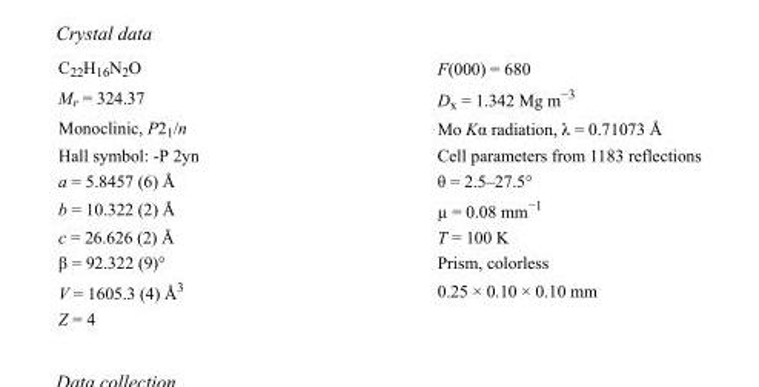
<table><tbody><tr><td>C<sub>22</sub>H<sub>16</sub>N<sub>2</sub>O</td><td>F(000) = 680</td></tr><tr><td>M<sub>r</sub> = 324.37</td><td>D<sub>x</sub> = 1.342 Mg m<sup>−3</sup></td></tr><tr><td>Monoclinic, P2<sub>1</sub>/n</td><td>Mo Kα radiation, λ = 0.71073 Å</td></tr><tr><td>Hall symbol: -P 2yn</td><td>Cell parameters from 1183 reflections</td></tr><tr><td>a = 5.8457 (6) Å</td><td>θ = 2.5–27.5°</td></tr><tr><td>b = 10.322 (2) Å</td><td>µ = 0.08 mm<sup>−1</sup></td></tr><tr><td>c = 26.626 (2) Å</td><td>T = 100 K</td></tr><tr><td>β = 92.322 (9)°</td><td>Prism, colorless</td></tr><tr><td>V = 1605.3 (4) Å<sup>3</sup></td><td>0.25 × 0.10 × 0.10 mm</td></tr><tr><td>Z = 4</td><td></td></tr></tbody></table>